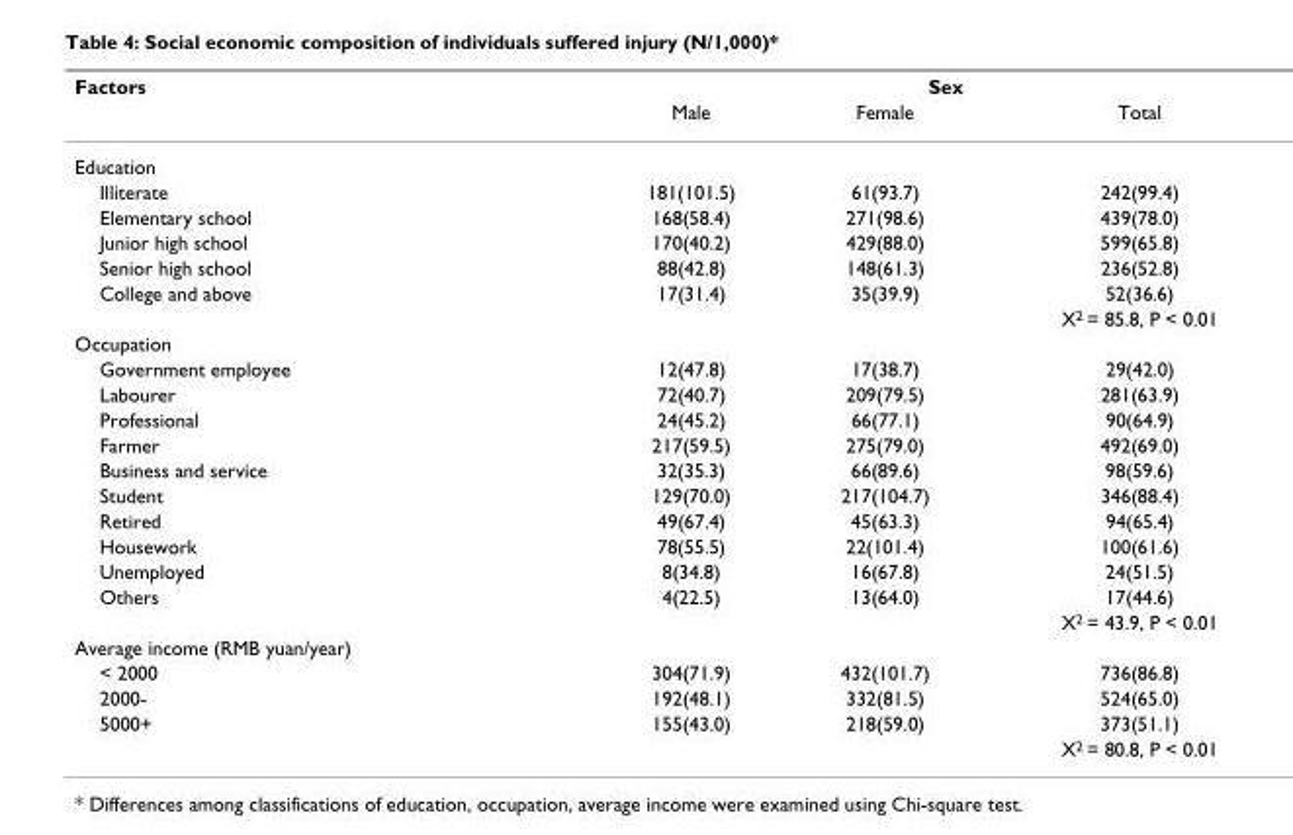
<table><thead><tr><td rowspan="2">Factors</td><td colspan="3">Sex</td></tr><tr><td>Male</td><td>Female</td><td>Total</td></tr></thead><tbody><tr><td colspan="4">Education</td></tr><tr><td>Illiterate</td><td>181(101.5)</td><td>61(93.7)</td><td>242(99.4)</td></tr><tr><td>Elementary school</td><td>168(58.4)</td><td>271(98.6)</td><td>439(78.0)</td></tr><tr><td>Junior high school</td><td>170(40.2)</td><td>429(88.0)</td><td>599(65.8)</td></tr><tr><td>Senior high school</td><td>88(42.8)</td><td>148(61.3)</td><td>236(52.8)</td></tr><tr><td rowspan="2">College and above</td><td>17(31.4)</td><td>35(39.9)</td><td>52(36.6)</td></tr><tr><td></td><td></td><td>X<sup>2</sup> = 85.8, P &lt; 0.01</td></tr><tr><td colspan="4">Occupation</td></tr><tr><td>Government employee</td><td>12(47.8)</td><td>17(38.7)</td><td>29(42.0)</td></tr><tr><td>Labourer</td><td>72(40.7)</td><td>209(79.5)</td><td>281(63.9)</td></tr><tr><td>Professional</td><td>24(45.2)</td><td>66(77.1)</td><td>90(64.9)</td></tr><tr><td>Farmer</td><td>217(59.5)</td><td>275(79.0)</td><td>492(69.0)</td></tr><tr><td>Business and service</td><td>32(35.3)</td><td>66(89.6)</td><td>98(59.6)</td></tr><tr><td>Student</td><td>129(70.0)</td><td>217(104.7)</td><td>346(88.4)</td></tr><tr><td>Retired</td><td>49(67.4)</td><td>45(63.3)</td><td>94(65.4)</td></tr><tr><td>Housework</td><td>78(55.5)</td><td>22(101.4)</td><td>100(61.6)</td></tr><tr><td>Unemployed</td><td>8(34.8)</td><td>16(67.8)</td><td>24(51.5)</td></tr><tr><td rowspan="2">Others</td><td>4(22.5)</td><td>13(64.0)</td><td>17(44.6)</td></tr><tr><td></td><td></td><td>X<sup>2</sup> = 43.9, P &lt; 0.01</td></tr><tr><td colspan="4">Average income (RMB yuan/year)</td></tr><tr><td>&lt; 2000</td><td>304(71.9)</td><td>432(101.7)</td><td>736(86.8)</td></tr><tr><td>2000-</td><td>192(48.1)</td><td>332(81.5)</td><td>524(65.0)</td></tr><tr><td rowspan="2">5000+</td><td>155(43.0)</td><td>218(59.0)</td><td>373(51.1)</td></tr><tr><td></td><td></td><td>X<sup>2</sup> = 80.8, P &lt; 0.01</td></tr></tbody></table>